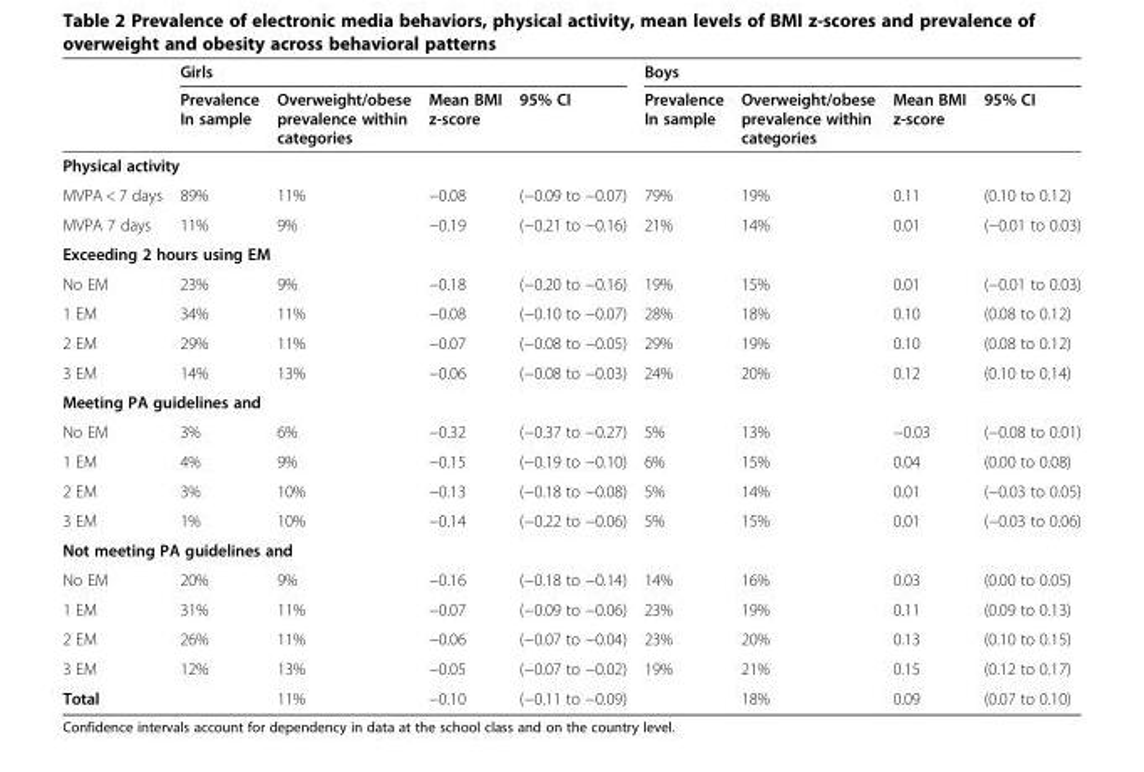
<table><thead><tr><td rowspan="2"></td><td colspan="4">Girls</td><td colspan="4">Boys</td></tr><tr><td>Prevalence In sample</td><td>Overweight/obese prevalence within categories</td><td>Mean BMI z-score</td><td>95% CI</td><td>Prevalence In sample</td><td>Overweight/obese prevalence within categories</td><td>Mean BMI z-score</td><td>95% CI</td></tr></thead><tbody><tr><td colspan="9">Physical activity</td></tr><tr><td>MVPA &lt; 7 days</td><td>89%</td><td>11%</td><td>−0.08</td><td>(−0.09 to −0.07)</td><td>79%</td><td>19%</td><td>0.11</td><td>(0.10 to 0.12)</td></tr><tr><td>MVPA 7 days</td><td>11%</td><td>9%</td><td>−0.19</td><td>(−0.21 to −0.16)</td><td>21%</td><td>14%</td><td>0.01</td><td>(−0.01 to 0.03)</td></tr><tr><td colspan="9">Exceeding 2 hours using EM</td></tr><tr><td>No EM</td><td>23%</td><td>9%</td><td>−0.18</td><td>(−0.20 to −0.16)</td><td>19%</td><td>15%</td><td>0.01</td><td>(−0.01 to 0.03)</td></tr><tr><td>1 EM</td><td>34%</td><td>11%</td><td>−0.08</td><td>(−0.10 to −0.07)</td><td>28%</td><td>18%</td><td>0.10</td><td>(0.08 to 0.12)</td></tr><tr><td>2 EM</td><td>29%</td><td>11%</td><td>−0.07</td><td>(−0.08 to −0.05)</td><td>29%</td><td>19%</td><td>0.10</td><td>(0.08 to 0.12)</td></tr><tr><td>3 EM</td><td>14%</td><td>13%</td><td>−0.06</td><td>(−0.08 to −0.03)</td><td>24%</td><td>20%</td><td>0.12</td><td>(0.10 to 0.14)</td></tr><tr><td colspan="9">Meeting PA guidelines and</td></tr><tr><td>No EM</td><td>3%</td><td>6%</td><td>−0.32</td><td>(−0.37 to −0.27)</td><td>5%</td><td>13%</td><td>−0.03</td><td>(−0.08 to 0.01)</td></tr><tr><td>1 EM</td><td>4%</td><td>9%</td><td>−0.15</td><td>(−0.19 to −0.10)</td><td>6%</td><td>15%</td><td>0.04</td><td>(0.00 to 0.08)</td></tr><tr><td>2 EM</td><td>3%</td><td>10%</td><td>−0.13</td><td>(−0.18 to −0.08)</td><td>5%</td><td>14%</td><td>0.01</td><td>(−0.03 to 0.05)</td></tr><tr><td>3 EM</td><td>1%</td><td>10%</td><td>−0.14</td><td>(−0.22 to −0.06)</td><td>5%</td><td>15%</td><td>0.01</td><td>(−0.03 to 0.06)</td></tr><tr><td colspan="9">Not meeting PA guidelines and</td></tr><tr><td>No EM</td><td>20%</td><td>9%</td><td>−0.16</td><td>(−0.18 to −0.14)</td><td>14%</td><td>16%</td><td>0.03</td><td>(0.00 to 0.05)</td></tr><tr><td>1 EM</td><td>31%</td><td>11%</td><td>−0.07</td><td>(−0.09 to −0.06)</td><td>23%</td><td>19%</td><td>0.11</td><td>(0.09 to 0.13)</td></tr><tr><td>2 EM</td><td>26%</td><td>11%</td><td>−0.06</td><td>(−0.07 to −0.04)</td><td>23%</td><td>20%</td><td>0.13</td><td>(0.10 to 0.15)</td></tr><tr><td>3 EM</td><td>12%</td><td>13%</td><td>−0.05</td><td>(−0.07 to −0.02)</td><td>19%</td><td>21%</td><td>0.15</td><td>(0.12 to 0.17)</td></tr><tr><td>Total</td><td></td><td>11%</td><td>−0.10</td><td>(−0.11 to −0.09)</td><td></td><td>18%</td><td>0.09</td><td>(0.07 to 0.10)</td></tr></tbody></table>